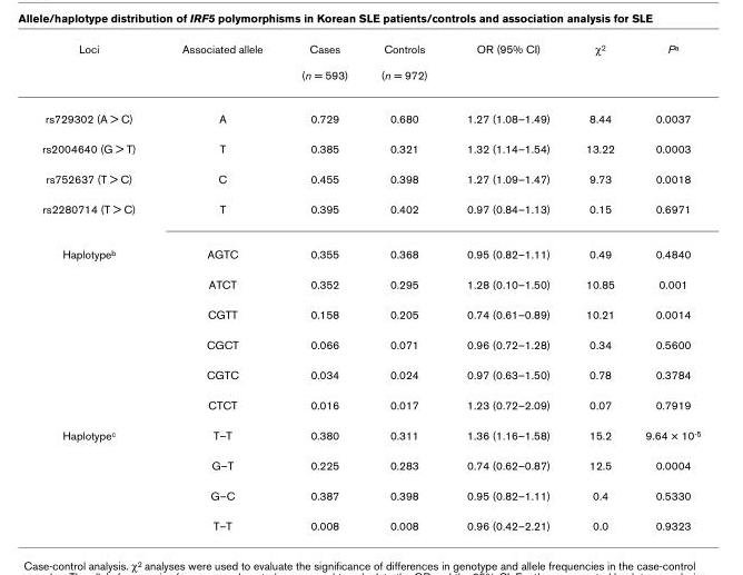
<table><thead><tr><td rowspan="2">Loci</td><td rowspan="2">Associated allele</td><td rowspan="2">Cases (n = 593)</td><td rowspan="2">Controls (n = 972)</td><td rowspan="2">OR (95% CI)</td><td rowspan="2">χ<sup>2</sup></td><td rowspan="2">P<sup>a</sup></td></tr><tr></tr></thead><tbody><tr><td>rs729302 (A &gt; C)</td><td>A</td><td>0.729</td><td>0.680</td><td>1.27 (1.08–1.49)</td><td>8.44</td><td>0.0037</td></tr><tr><td>rs2004640 (G &gt; T)</td><td>T</td><td>0.385</td><td>0.321</td><td>1.32 (1.14–1.54)</td><td>13.22</td><td>0.0003</td></tr><tr><td>rs752637 (T &gt; C)</td><td>C</td><td>0.455</td><td>0.398</td><td>1.27 (1.09–1.47)</td><td>9.73</td><td>0.0018</td></tr><tr><td>rs2280714 (T &gt; C)</td><td>T</td><td>0.395</td><td>0.402</td><td>0.97 (0.84–1.13)</td><td>0.15</td><td>0.6971</td></tr><tr><td rowspan="6">Haplotype<sup>b</sup></td><td>AGTC</td><td>0.355</td><td>0.368</td><td>0.95 (0.82–1.11)</td><td>0.49</td><td>0.4840</td></tr><tr><td>ATCT</td><td>0.352</td><td>0.295</td><td>1.28 (0.10–1.50)</td><td>10.85</td><td>0.001</td></tr><tr><td>CGTT</td><td>0.158</td><td>0.205</td><td>0.74 (0.61–0.89)</td><td>10.21</td><td>0.0014</td></tr><tr><td>CGCT</td><td>0.066</td><td>0.071</td><td>0.96 (0.72–1.28)</td><td>0.34</td><td>0.5600</td></tr><tr><td>CGTC</td><td>0.034</td><td>0.024</td><td>0.97 (0.63–1.50)</td><td>0.78</td><td>0.3784</td></tr><tr><td>CTCT</td><td>0.016</td><td>0.017</td><td>1.23 (0.72–2.09)</td><td>0.07</td><td>0.7919</td></tr><tr><td rowspan="4">Haplotype<sup>c</sup></td><td>T–T</td><td>0.380</td><td>0.311</td><td>1.36 (1.16–1.58)</td><td>15.2</td><td>9.64 × 10<sup>-5</sup></td></tr><tr><td>G–T</td><td>0.225</td><td>0.283</td><td>0.74 (0.62–0.87)</td><td>12.5</td><td>0.0004</td></tr><tr><td>G–C</td><td>0.387</td><td>0.398</td><td>0.95 (0.82–1.11)</td><td>0.4</td><td>0.5330</td></tr><tr><td>T–T</td><td>0.008</td><td>0.008</td><td>0.96 (0.42–2.21)</td><td>0.0</td><td>0.9323</td></tr></tbody></table>